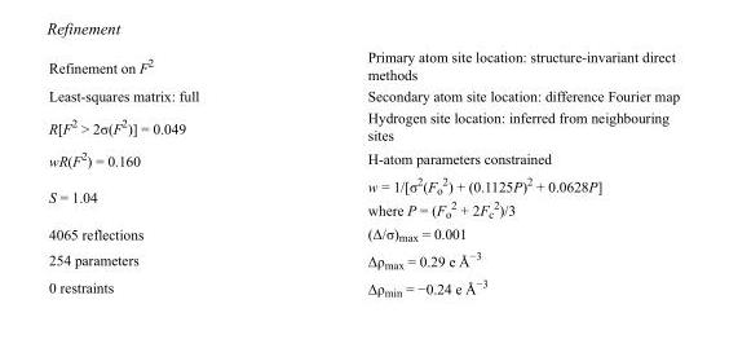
<table><tbody><tr><td>Refinement on F<sup>2</sup></td><td>Primary atom site location: structure-invariant direct methods</td></tr><tr><td>Least-squares matrix: full</td><td>Secondary atom site location: difference Fourier map</td></tr><tr><td>R[F<sup>2</sup> &gt; 2σ(F<sup>2</sup>)] = 0.049</td><td>Hydrogen site location: inferred from neighbouring sites</td></tr><tr><td>wR(F<sup>2</sup>) = 0.160</td><td>H-atom parameters constrained</td></tr><tr><td>S = 1.04</td><td>w = 1/[σ<sup>2</sup>(F<sub>o</sub> <sup>2</sup>) + (0.1125P)<sup>2</sup> + 0.0628P] where P = (F<sub>o</sub> <sup>2</sup> + 2F<sub>c</sub> <sup>2</sup>)/3</td></tr><tr><td>4065 reflections</td><td>(Δ/σ)<sub>max</sub> = 0.001</td></tr><tr><td>254 parameters</td><td>Δρ<sub>max</sub> = 0.29 e Å<sup>−3</sup></td></tr><tr><td>0 restraints</td><td>Δρ<sub>min</sub> = −0.24 e Å<sup>−3</sup></td></tr></tbody></table>